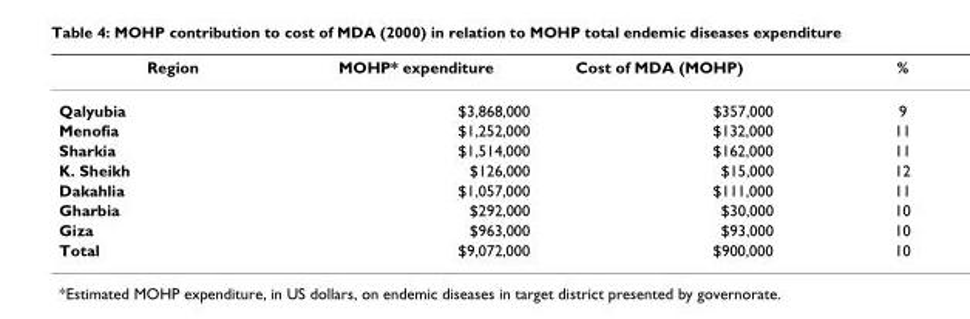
<table><thead><tr><td>Region</td><td>MOHP* expenditure</td><td>Cost of MDA (MOHP)</td><td>%</td></tr></thead><tbody><tr><td>Qalyubia</td><td>$3,868,000</td><td>$357,000</td><td>9</td></tr><tr><td>Menofia</td><td>$1,252,000</td><td>$132,000</td><td>11</td></tr><tr><td>Sharkia</td><td>$1,514,000</td><td>$162,000</td><td>11</td></tr><tr><td>K. Sheikh</td><td>$126,000</td><td>$15,000</td><td>12</td></tr><tr><td>Dakahlia</td><td>$1,057,000</td><td>$111,000</td><td>11</td></tr><tr><td>Gharbia</td><td>$292,000</td><td>$30,000</td><td>10</td></tr><tr><td>Giza</td><td>$963,000</td><td>$93,000</td><td>10</td></tr><tr><td>Total</td><td>$9,072,000</td><td>$900,000</td><td>10</td></tr></tbody></table>